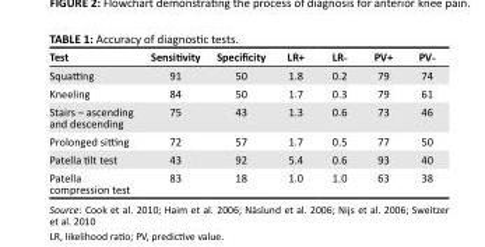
<table><thead><tr><td>Test</td><td>Sensitivity</td><td>Specificity</td><td>LR+</td><td>LR˗</td><td>PV+</td><td>PV˗</td></tr></thead><tbody><tr><td>Squatting</td><td>91</td><td>50</td><td>1.8</td><td>0.2</td><td>79</td><td>74</td></tr><tr><td>Kneeling</td><td>84</td><td>50</td><td>1.7</td><td>0.3</td><td>79</td><td>61</td></tr><tr><td>Stairs – ascending and descending</td><td>75</td><td>43</td><td>1.3</td><td>0.6</td><td>73</td><td>46</td></tr><tr><td>Prolonged sitting</td><td>72</td><td>57</td><td>1.7</td><td>0.5</td><td>77</td><td>50</td></tr><tr><td>Patella tilt test</td><td>43</td><td>92</td><td>5.4</td><td>0.6</td><td>93</td><td>40</td></tr><tr><td>Patella compression test</td><td>83</td><td>18</td><td>1.0</td><td>1.0</td><td>63</td><td>38</td></tr></tbody></table>